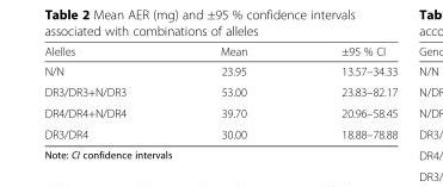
<table><thead><tr><td>Alelles</td><td>Mean</td><td>±95 % CI</td></tr></thead><tbody><tr><td>N/N</td><td>23.95</td><td>13.57–34.33</td></tr><tr><td>DR3/DR3+N/DR3</td><td>53.00</td><td>23.83–82.17</td></tr><tr><td>DR4/DR4+N/DR4</td><td>39.70</td><td>20.96–58.45</td></tr><tr><td>DR3/DR4</td><td>30.00</td><td>18.88–78.88</td></tr></tbody></table>